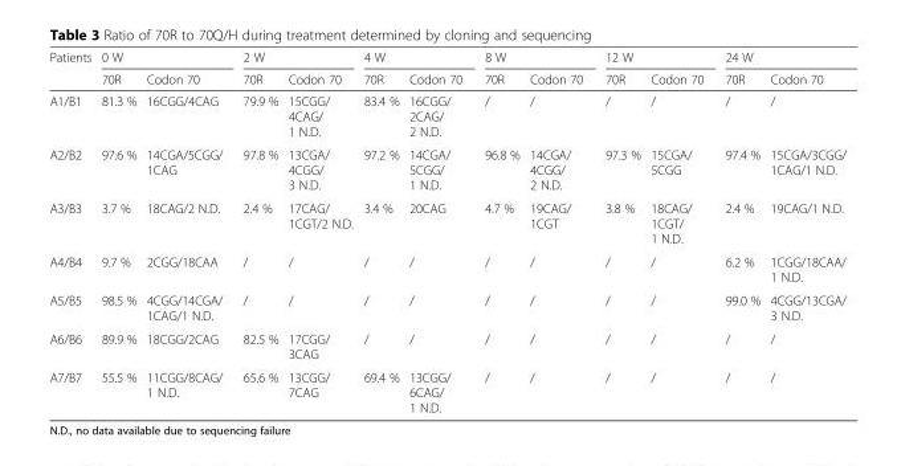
<table><thead><tr><td rowspan="2">Patients</td><td colspan="2">0 W</td><td colspan="2">2 W</td><td colspan="2">4 W</td><td colspan="2">8 W</td><td colspan="2">12 W</td><td colspan="2">24 W</td></tr><tr><td>70R</td><td>Codon 70</td><td>70R</td><td>Codon 70</td><td>70R</td><td>Codon 70</td><td>70R</td><td>Codon 70</td><td>70R</td><td>Codon 70</td><td>70R</td><td>Codon 70</td></tr></thead><tbody><tr><td>A1/B1</td><td>81.3 %</td><td>16CGG/4CAG</td><td>79.9 %</td><td>15CGG/ 4CAG/ 1 N.D.</td><td>83.4 %</td><td>16CGG/ 2CAG/ 2 N.D.</td><td>/</td><td>/</td><td>/</td><td>/</td><td>/</td><td>/</td></tr><tr><td>A2/B2</td><td>97.6 %</td><td>14CGA/5CGG/ 1CAG</td><td>97.8 %</td><td>13CGA/ 4CGG/ 3 N.D.</td><td>97.2 %</td><td>14CGA/ 5CGG/ 1 N.D.</td><td>96.8 %</td><td>14CGA/ 4CGG/ 2 N.D.</td><td>97.3 %</td><td>15CGA/ 5CGG</td><td>97.4 %</td><td>15CGA/3CGG/ 1CAG/1 N.D.</td></tr><tr><td>A3/B3</td><td>3.7 %</td><td>18CAG/2 N.D.</td><td>2.4 %</td><td>17CAG/ 1CGT/2 N.D.</td><td>3.4 %</td><td>20CAG</td><td>4.7 %</td><td>19CAG/ 1CGT</td><td>3.8 %</td><td>18CAG/ 1CGT/ 1 N.D.</td><td>2.4 %</td><td>19CAG/1 N.D.</td></tr><tr><td>A4/B4</td><td>9.7 %</td><td>2CGG/18CAA</td><td>/</td><td>/</td><td>/</td><td>/</td><td>/</td><td>/</td><td>/</td><td>/</td><td>6.2 %</td><td>1CGG/18CAA/ 1 N.D.</td></tr><tr><td>A5/B5</td><td>98.5 %</td><td>4CGG/14CGA/ 1CAG/1 N.D.</td><td>/</td><td>/</td><td>/</td><td>/</td><td>/</td><td>/</td><td>/</td><td>/</td><td>99.0 %</td><td>4CGG/13CGA/ 3 N.D.</td></tr><tr><td>A6/B6</td><td>89.9 %</td><td>18CGG/2CAG</td><td>82.5 %</td><td>17CGG/ 3CAG</td><td>/</td><td>/</td><td>/</td><td>/</td><td>/</td><td>/</td><td>/</td><td>/</td></tr><tr><td>A7/B7</td><td>55.5 %</td><td>11CGG/8CAG/ 1 N.D.</td><td>65.6 %</td><td>13CGG/ 7CAG</td><td>69.4 %</td><td>13CGG/ 6CAG/ 1 N.D.</td><td>/</td><td>/</td><td>/</td><td>/</td><td>/</td><td>/</td></tr></tbody></table>